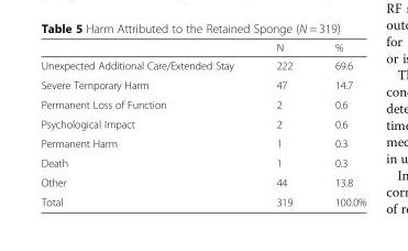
<table><thead><tr><td></td><td>N</td><td>%</td></tr></thead><tbody><tr><td>Unexpected Additional Care/Extended Stay</td><td>222</td><td>69.6</td></tr><tr><td>Severe Temporary Harm</td><td>47</td><td>14.7</td></tr><tr><td>Permanent Loss of Function</td><td>2</td><td>0.6</td></tr><tr><td>Psychological Impact</td><td>2</td><td>0.6</td></tr><tr><td>Permanent Harm</td><td>1</td><td>0.3</td></tr><tr><td>Death</td><td>1</td><td>0.3</td></tr><tr><td>Other</td><td>44</td><td>13.8</td></tr><tr><td>Total</td><td>319</td><td>100.0%</td></tr></tbody></table>